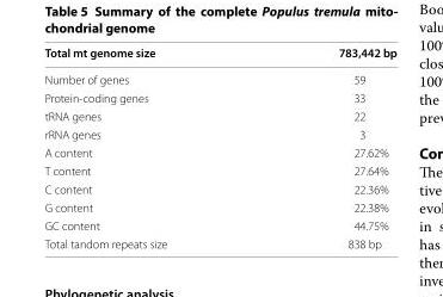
<table><thead><tr><td>Total mt genome size</td><td>783,442 bp</td></tr></thead><tbody><tr><td>Number of genes</td><td>59</td></tr><tr><td>Protein-coding genes</td><td>33</td></tr><tr><td>tRNA genes</td><td>22</td></tr><tr><td>rRNA genes</td><td>3</td></tr><tr><td>A content</td><td>27.62%</td></tr><tr><td>T content</td><td>27.64%</td></tr><tr><td>C content</td><td>22.36%</td></tr><tr><td>G content</td><td>22.38%</td></tr><tr><td>GC content</td><td>44.75%</td></tr><tr><td>Total tandom repeats size</td><td>838 bp</td></tr></tbody></table>